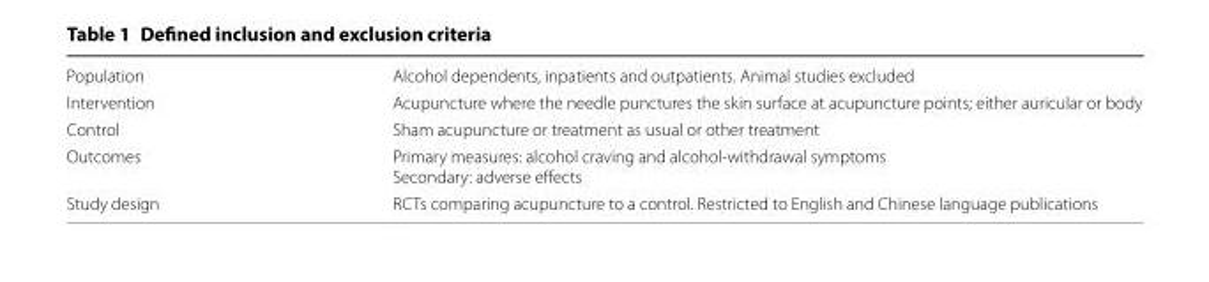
<table><tbody><tr><td>Population</td><td>Alcohol dependents, inpatients and outpatients. Animal studies excluded</td></tr><tr><td>Intervention</td><td>Acupuncture where the needle punctures the skin surface at acupuncture points; either auricular or body</td></tr><tr><td>Control</td><td>Sham acupuncture or treatment as usual or other treatment</td></tr><tr><td>Outcomes</td><td>Primary measures: alcohol craving and alcohol-withdrawal symptoms Secondary: adverse effects</td></tr><tr><td>Study design</td><td>RCTs comparing acupuncture to a control. Restricted to English and Chinese language publications</td></tr></tbody></table>